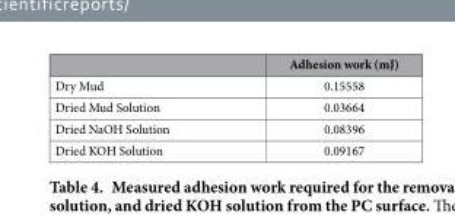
<table><thead><tr><td></td><td>Adhesion work (mJ)</td></tr></thead><tbody><tr><td>Dry Mud</td><td>0.15558</td></tr><tr><td>Dried Mud Solution</td><td>0.03664</td></tr><tr><td>Dried NaOH Solution</td><td>0.08396</td></tr><tr><td>Dried KOH Solution</td><td>0.09167</td></tr></tbody></table>